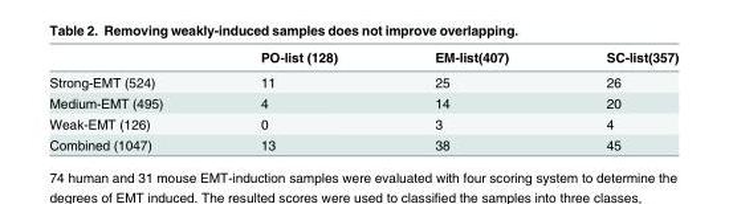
<table><thead><tr><td></td><td>PO-list (128)</td><td>EM-list(407)</td><td>SC-list(357)</td></tr></thead><tbody><tr><td>Strong-EMT (524)</td><td>11</td><td>25</td><td>26</td></tr><tr><td>Medium-EMT (495)</td><td>4</td><td>14</td><td>20</td></tr><tr><td>Weak-EMT (126)</td><td>0</td><td>3</td><td>4</td></tr><tr><td>Combined (1047)</td><td>13</td><td>38</td><td>45</td></tr></tbody></table>